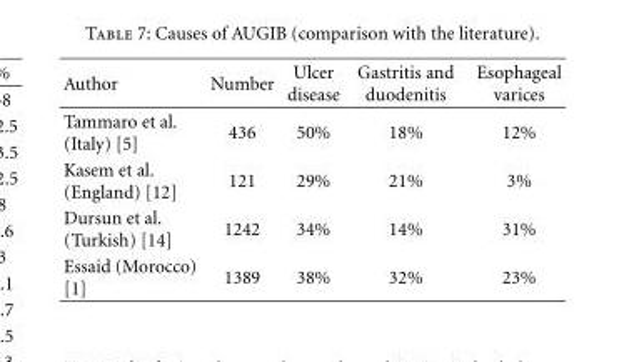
<table><thead><tr><td>Author</td><td>Number</td><td>Ulcer disease</td><td>Gastritis and duodenitis</td><td>Esophageal varices</td></tr></thead><tbody><tr><td>Tammaro et al. (Italy) [5]</td><td>436</td><td>50%</td><td>18%</td><td>12%</td></tr><tr><td>Kasem et al. (England) [12]</td><td>121</td><td>29%</td><td>21%</td><td>3%</td></tr><tr><td>Dursun et al. (Turkish) [14]</td><td>1242</td><td>34%</td><td>14%</td><td>31%</td></tr><tr><td>Essaid (Morocco) [1]</td><td>1389</td><td>38%</td><td>32%</td><td>23%</td></tr></tbody></table>